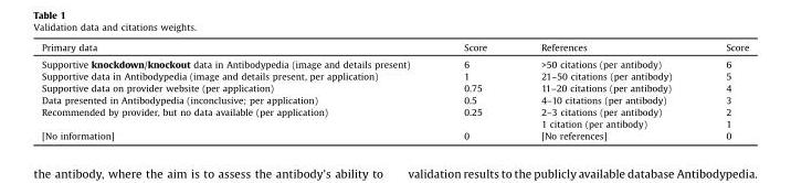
<table><thead><tr><td>Primary data</td><td>Score</td><td>References</td><td>Score</td></tr></thead><tbody><tr><td>Supportive knockdown/knockout data in Antibodypedia (image and details present)</td><td>6</td><td>&gt;50 citations (per antibody)</td><td>6</td></tr><tr><td>Supportive data in Antibodypedia (image and details present, per application)</td><td>1</td><td>21–50 citations (per antibody)</td><td>5</td></tr><tr><td>Supportive data on provider website (per application)</td><td>0.75</td><td>11–20 citations (per antibody)</td><td>4</td></tr><tr><td>Data presented in Antibodypedia (inconclusive; per application)</td><td>0.5</td><td>4–10 citations (per antibody)</td><td>3</td></tr><tr><td rowspan="2">Recommended by provider, but no data available (per application)</td><td>0.25</td><td>2–3 citations (per antibody)</td><td>2</td></tr><tr><td></td><td>1 citation (per antibody)</td><td>1</td></tr><tr><td>[No information]</td><td>0</td><td>[No references]</td><td>0</td></tr></tbody></table>